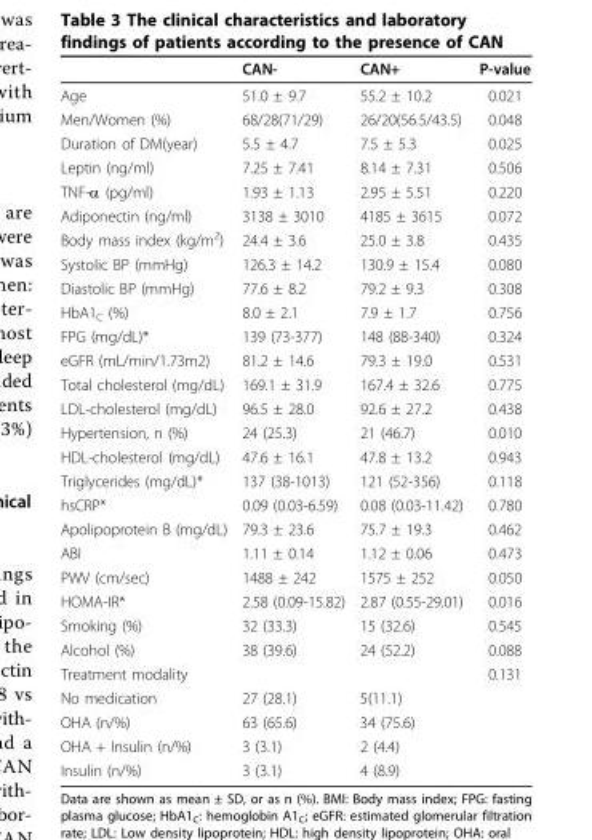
<table><thead><tr><td></td><td>CAN-</td><td>CAN+</td><td>P-value</td></tr></thead><tbody><tr><td>Age</td><td>51.0 ± 9.7</td><td>55.2 ± 10.2</td><td>0.021</td></tr><tr><td>Men/Women (%)</td><td>68/28(71/29)</td><td>26/20(56.5/43.5)</td><td>0.048</td></tr><tr><td>Duration of DM(year)</td><td>5.5 ± 4.7</td><td>7.5 ± 5.3</td><td>0.025</td></tr><tr><td>Leptin (ng/ml)</td><td>7.25 ± 7.41</td><td>8.14 ± 7.31</td><td>0.506</td></tr><tr><td>TNF-α (pg/ml)</td><td>1.93 ± 1.13</td><td>2.95 ± 5.51</td><td>0.220</td></tr><tr><td>Adiponectin (ng/ml)</td><td>3138 ± 3010</td><td>4185 ± 3615</td><td>0.072</td></tr><tr><td>Body mass index (kg/m<sup>2</sup>)</td><td>24.4 ± 3.6</td><td>25.0 ± 3.8</td><td>0.435</td></tr><tr><td>Systolic BP (mmHg)</td><td>126.3 ± 14.2</td><td>130.9 ± 15.4</td><td>0.080</td></tr><tr><td>Diastolic BP (mmHg)</td><td>77.6 ± 8.2</td><td>79.2 ± 9.3</td><td>0.308</td></tr><tr><td>HbA1<sub>C</sub> (%)</td><td>8.0 ± 2.1</td><td>7.9 ± 1.7</td><td>0.756</td></tr><tr><td>FPG (mg/dL)*</td><td>139 (73-377)</td><td>148 (88-340)</td><td>0.324</td></tr><tr><td>eGFR (mL/min/1.73m2)</td><td>81.2 ± 14.6</td><td>79.3 ± 19.0</td><td>0.531</td></tr><tr><td>Total cholesterol (mg/dL)</td><td>169.1 ± 31.9</td><td>167.4 ± 32.6</td><td>0.775</td></tr><tr><td>LDL-cholesterol (mg/dL)</td><td>96.5 ± 28.0</td><td>92.6 ± 27.2</td><td>0.438</td></tr><tr><td>Hypertension, n (%)</td><td>24 (25.3)</td><td>21 (46.7)</td><td>0.010</td></tr><tr><td>HDL-cholesterol (mg/dL)</td><td>47.6 ± 16.1</td><td>47.8 ± 13.2</td><td>0.943</td></tr><tr><td>Triglycerides (mg/dL)*</td><td>137 (38-1013)</td><td>121 (52-356)</td><td>0.118</td></tr><tr><td>hsCRP*</td><td>0.09 (0.03-6.59)</td><td>0.08 (0.03-11.42)</td><td>0.780</td></tr><tr><td>Apolipoprotein B (mg/dL)</td><td>79.3 ± 23.6</td><td>75.7 ± 19.3</td><td>0.462</td></tr><tr><td>ABI</td><td>1.11 ± 0.14</td><td>1.12 ± 0.06</td><td>0.473</td></tr><tr><td>PWV (cm/sec)</td><td>1488 ± 242</td><td>1575 ± 252</td><td>0.050</td></tr><tr><td>HOMA-IR*</td><td>2.58 (0.09-15.82)</td><td>2.87 (0.55-29.01)</td><td>0.016</td></tr><tr><td>Smoking (%)</td><td>32 (33.3)</td><td>15 (32.6)</td><td>0.545</td></tr><tr><td>Alcohol (%)</td><td>38 (39.6)</td><td>24 (52.2)</td><td>0.088</td></tr><tr><td>Treatment modality</td><td></td><td></td><td>0.131</td></tr><tr><td>No medication</td><td>27 (28.1)</td><td>5(11.1)</td><td></td></tr><tr><td>OHA (n/%)</td><td>63 (65.6)</td><td>34 (75.6)</td><td></td></tr><tr><td>OHA + Insulin (n/%)</td><td>3 (3.1)</td><td>2 (4.4)</td><td></td></tr><tr><td>Insulin (n/%)</td><td>3 (3.1)</td><td>4 (8.9)</td><td></td></tr></tbody></table>